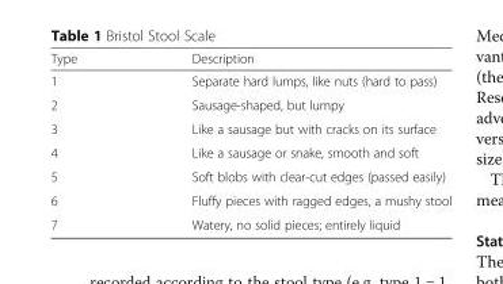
<table><thead><tr><td>Type</td><td>Description</td></tr></thead><tbody><tr><td>1</td><td>Separate hard lumps, like nuts (hard to pass)</td></tr><tr><td>2</td><td>Sausage-shaped, but lumpy</td></tr><tr><td>3</td><td>Like a sausage but with cracks on its surface</td></tr><tr><td>4</td><td>Like a sausage or snake, smooth and soft</td></tr><tr><td>5</td><td>Soft blobs with clear-cut edges (passed easily)</td></tr><tr><td>6</td><td>Fluffy pieces with ragged edges, a mushy stool</td></tr><tr><td>7</td><td>Watery, no solid pieces; entirely liquid</td></tr></tbody></table>